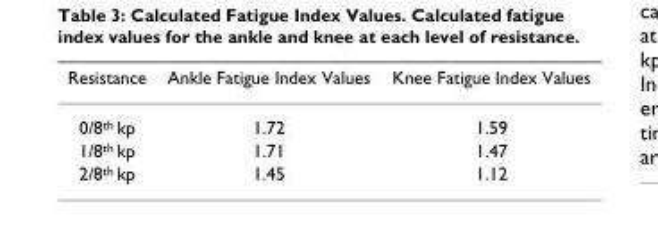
<table><thead><tr><td>Resistance</td><td>Ankle Fatigue Index Values</td><td>Knee Fatigue Index Values</td></tr></thead><tbody><tr><td>0/8<sup>th</sup> kp</td><td>1.72</td><td>1.59</td></tr><tr><td>1/8<sup>th</sup> kp</td><td>1.71</td><td>1.47</td></tr><tr><td>2/8<sup>th</sup> kp</td><td>1.45</td><td>1.12</td></tr></tbody></table>